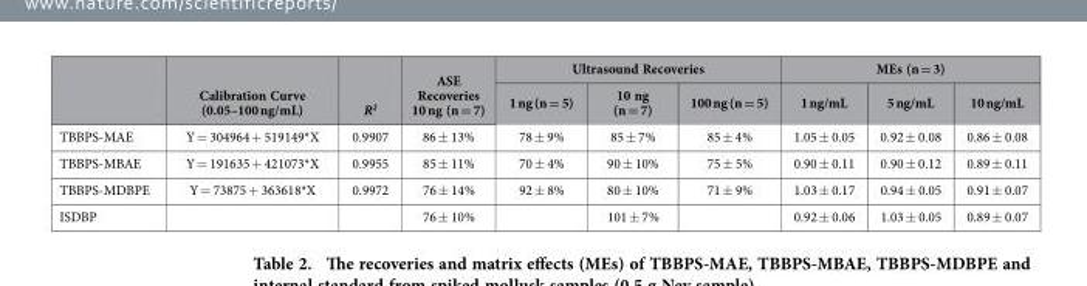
<table><thead><tr><td rowspan="2"></td><td rowspan="2">Calibration Curve (0.05–100 ng/mL)</td><td rowspan="2">R<sup>2</sup></td><td rowspan="2">ASE Recoveries 10 ng (n = 7)</td><td colspan="3">Ultrasound Recoveries</td><td colspan="3">MEs (n = 3)</td></tr><tr><td>1 ng (n = 5)</td><td>10 ng (n = 7)</td><td>100 ng (n = 5)</td><td>1 ng/mL</td><td>5 ng/mL</td><td>10 ng/mL</td></tr></thead><tbody><tr><td>TBBPS-MAE</td><td>Y = 304964 + 519149*X</td><td>0.9907</td><td>86 ± 13%</td><td>78 ± 9%</td><td>85 ± 7%</td><td>85 ± 4%</td><td>1.05 ± 0.05</td><td>0.92 ± 0.08</td><td>0.86 ± 0.08</td></tr><tr><td>TBBPS-MBAE</td><td>Y = 191635 + 421073*X</td><td>0.9955</td><td>85 ± 11%</td><td>70 ± 4%</td><td>90 ± 10%</td><td>75 ± 5%</td><td>0.90 ± 0.11</td><td>0.90 ± 0.12</td><td>0.89 ± 0.11</td></tr><tr><td>TBBPS-MDBPE</td><td>Y = 73875 + 363618*X</td><td>0.9972</td><td>76 ± 14%</td><td>92 ± 8%</td><td>80 ± 10%</td><td>71 ± 9%</td><td>1.03 ± 0.17</td><td>0.94 ± 0.05</td><td>0.91 ± 0.07</td></tr><tr><td>ISDBP</td><td></td><td></td><td>76 ± 10%</td><td></td><td>101 ± 7%</td><td></td><td>0.92 ± 0.06</td><td>1.03 ± 0.05</td><td>0.89 ± 0.07</td></tr></tbody></table>